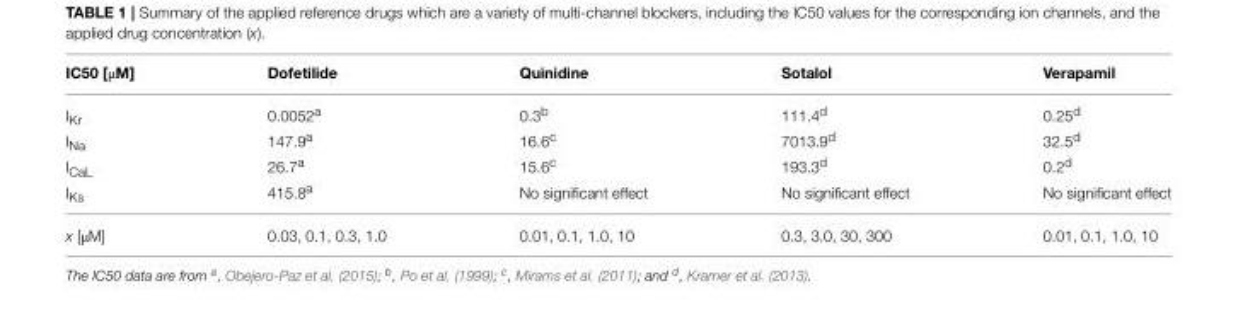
<table><thead><tr><td>IC50 [µM]</td><td>Dofetilide</td><td>Quinidine</td><td>Sotalol</td><td>Verapamil</td></tr></thead><tbody><tr><td>I<sub>Kr</sub></td><td>0.0052<sup>a</sup></td><td>0.3<sup>b</sup></td><td>111.4<sup>d</sup></td><td>0.25<sup>d</sup></td></tr><tr><td>I<sub>Na</sub></td><td>147.9<sup>a</sup></td><td>16.6<sup>c</sup></td><td>7013.9<sup>d</sup></td><td>32.5<sup>d</sup></td></tr><tr><td>I<sub>CaL</sub></td><td>26.7<sup>a</sup></td><td>15.6<sup>c</sup></td><td>193.3<sup>d</sup></td><td>0.2<sup>d</sup></td></tr><tr><td>I<sub>Ks</sub></td><td>415.8<sup>a</sup></td><td>No significant effect</td><td>No significant effect</td><td>No significant effect</td></tr><tr><td>x [µM]</td><td>0.03, 0.1, 0.3, 1.0</td><td>0.01, 0.1, 1.0, 10</td><td>0.3, 3.0, 30, 300</td><td>0.01, 0.1, 1.0, 10</td></tr></tbody></table>